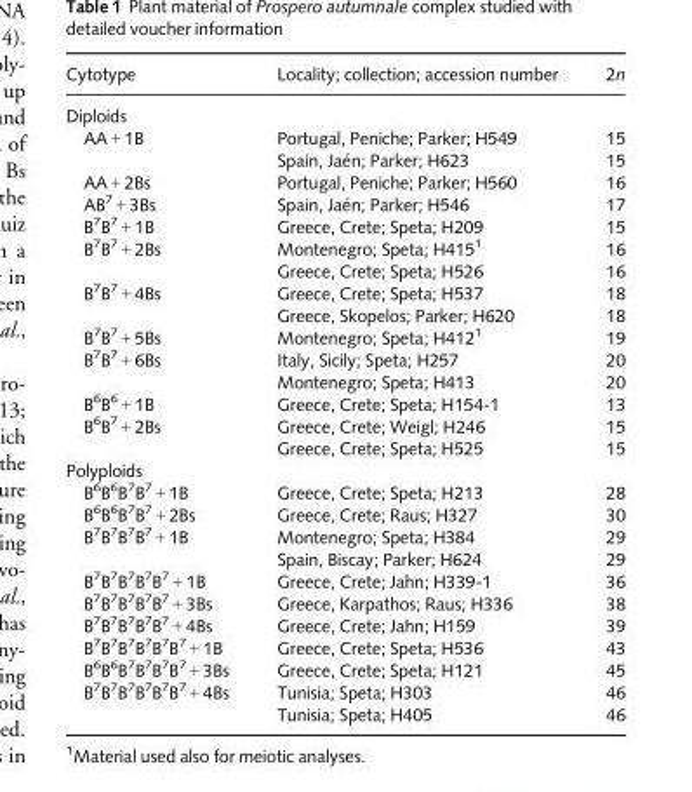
<table><thead><tr><td>Cytotype</td><td>Locality; collection; accession number</td><td>2n</td></tr></thead><tbody><tr><td colspan="3">Diploids</td></tr><tr><td rowspan="2">AA + 1B</td><td>Portugal, Peniche; Parker; H549</td><td>15</td></tr><tr><td>Spain, Ja�en; Parker; H623</td><td>15</td></tr><tr><td>AA + 2Bs</td><td>Portugal, Peniche; Parker; H560</td><td>16</td></tr><tr><td>AB<sup>7</sup> + 3Bs</td><td>Spain, Ja�en; Parker; H546</td><td>17</td></tr><tr><td>B<sup>7</sup>B<sup>7</sup> + 1B</td><td>Greece, Crete; Speta; H209</td><td>15</td></tr><tr><td rowspan="2">B<sup>7</sup>B<sup>7</sup> + 2Bs</td><td>Montenegro; Speta; H4151</td><td>16</td></tr><tr><td>Greece, Crete; Speta; H526</td><td>16</td></tr><tr><td rowspan="2">B<sup>7</sup>B<sup>7</sup> + 4Bs</td><td>Greece, Crete; Speta; H537</td><td>18</td></tr><tr><td>Greece, Skopelos; Parker; H620</td><td>18</td></tr><tr><td>B<sup>7</sup>B<sup>7</sup> + 5Bs</td><td>Montenegro; Speta; H4121</td><td>19</td></tr><tr><td rowspan="2">B<sup>7</sup>B<sup>7</sup> + 6Bs</td><td>Italy, Sicily; Speta; H257</td><td>20</td></tr><tr><td>Montenegro; Speta; H413</td><td>20</td></tr><tr><td>B<sup>6</sup>B<sup>6</sup> + 1B</td><td>Greece, Crete; Speta; H154-1</td><td>13</td></tr><tr><td rowspan="2">B<sup>6</sup>B<sup>7</sup> + 2Bs</td><td>Greece, Crete; Weigl; H246</td><td>15</td></tr><tr><td>Greece, Crete; Speta; H525</td><td>15</td></tr><tr><td colspan="3">Polyploids</td></tr><tr><td>B<sup>6</sup>B<sup>6</sup>B<sup>7</sup>B<sup>7</sup> + 1B</td><td>Greece, Crete; Speta; H213</td><td>28</td></tr><tr><td>B<sup>6</sup>B<sup>6</sup>B<sup>7</sup>B<sup>7</sup> + 2Bs</td><td>Greece, Crete; Raus; H327</td><td>30</td></tr><tr><td rowspan="2">B<sup>7</sup>B<sup>7</sup>B<sup>7</sup>B<sup>7</sup> + 1B</td><td>Montenegro; Speta; H384</td><td>29</td></tr><tr><td>Spain, Biscay; Parker; H624</td><td>29</td></tr><tr><td>B<sup>7</sup>B<sup>7</sup>B<sup>7</sup>B<sup>7</sup>B<sup>7</sup> + 1B</td><td>Greece, Crete; Jahn; H339-1</td><td>36</td></tr><tr><td>B<sup>7</sup>B<sup>7</sup>B<sup>7</sup>B<sup>7</sup>B<sup>7</sup> + 3Bs</td><td>Greece, Karpathos; Raus; H336</td><td>38</td></tr><tr><td>B<sup>7</sup>B<sup>7</sup>B<sup>7</sup>B<sup>7</sup>B<sup>7</sup> + 4Bs</td><td>Greece, Crete; Jahn; H159</td><td>39</td></tr><tr><td>B<sup>7</sup>B<sup>7</sup>B<sup>7</sup>B<sup>7</sup>B<sup>7</sup>B<sup>7</sup> + 1B</td><td>Greece, Crete; Speta; H536</td><td>43</td></tr><tr><td>B<sup>6</sup>B<sup>6</sup>B<sup>7</sup>B<sup>7</sup>B<sup>7</sup>B<sup>7</sup> + 3Bs</td><td>Greece, Crete; Speta; H121</td><td>45</td></tr><tr><td rowspan="2">B<sup>7</sup>B<sup>7</sup>B<sup>7</sup>B<sup>7</sup>B<sup>7</sup>B<sup>7</sup> + 4Bs</td><td>Tunisia; Speta; H303</td><td>46</td></tr><tr><td>Tunisia; Speta; H405</td><td>46</td></tr></tbody></table>